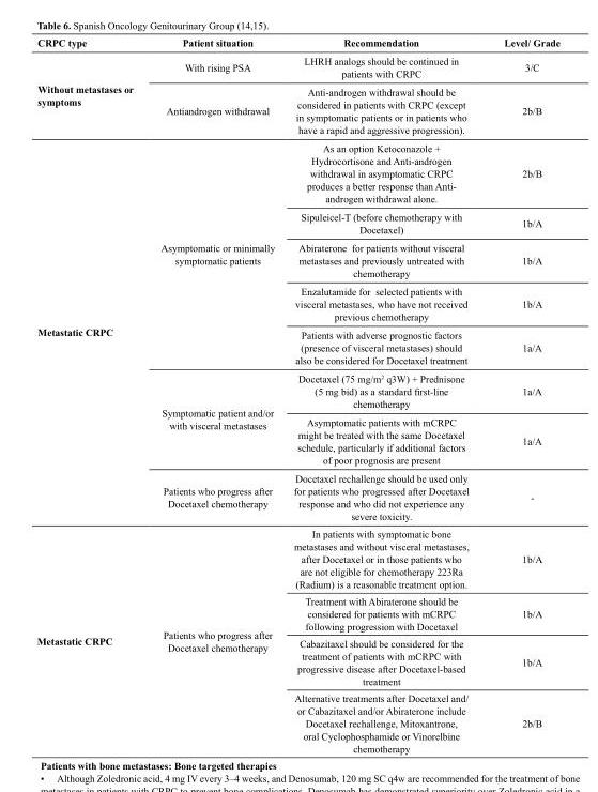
<table><thead><tr><td>CRPC type</td><td>Patient situation</td><td>Recommendation</td><td>Level/ Grade</td></tr></thead><tbody><tr><td rowspan="2">Without metastases or symptoms</td><td>With rising PSA</td><td>LHRH analogs should be continued in patients with CRPC</td><td>3/C</td></tr><tr><td>Antiandrogen withdrawal</td><td>Anti-androgen withdrawal should be considered in patients with CRPC (except in symptomatic patients or in patients who have a rapid and aggressive progression).</td><td>2b/B</td></tr><tr><td rowspan="12">Metastatic CRPC Metastatic CRPC</td><td rowspan="5">Asymptomatic or minimally symptomatic patients</td><td>As an option Ketoconazole + Hydrocortisone and Anti-androgen withdrawal in asymptomatic CRPC produces a better response than Anti- androgen withdrawal alone.</td><td>2b/B</td></tr><tr><td>Sipuleicel-T (before chemotherapy with Docetaxel)</td><td>1b/A</td></tr><tr><td>Abiraterone for patients without visceral metastases and previously untreated with chemotherapy</td><td>1b/A</td></tr><tr><td>Enzalutamide for selected patients with visceral metastases, who have not received previous chemotherapy</td><td>1b/A</td></tr><tr><td>Patients with adverse prognostic factors (presence of visceral metastases) should also be considered for Docetaxel treatment</td><td>1a/A</td></tr><tr><td rowspan="2">Symptomatic patient and/or with visceral metastases</td><td>Docetaxel (75 mg/m<sup>2</sup> q3W) + Prednisone (5 mg bid) as a standard first-line chemotherapy</td><td>1a/A</td></tr><tr><td>Asymptomatic patients with mCRPC might be treated with the same Docetaxel schedule, particularly if additional factors of poor prognosis are present</td><td>1a/A</td></tr><tr><td rowspan="5">Patients who progress after Docetaxel chemotherapy Patients who progress after Docetaxel chemotherapy</td><td>Docetaxel rechallenge should be used only for patients who progressed after Docetaxel response and who did not experience any severe toxicity.</td><td>-</td></tr><tr><td>In patients with symptomatic bone metastases and without visceral metastases, after Docetaxel or in those patients who are not eligible for chemotherapy <sup>223</sup>Ra (Radium) is a reasonable treatment option.</td><td>1b/A</td></tr><tr><td>Treatment with Abiraterone should be considered for patients with mCRPC following progression with Docetaxel</td><td>1b/A</td></tr><tr><td>Cabazitaxel should be considered for the treatment of patients with mCRPC with progressive disease after Docetaxel-based treatment</td><td>1b/A</td></tr><tr><td>Alternative treatments after Docetaxel and/ or Cabazitaxel and/or Abiraterone include Docetaxel rechallenge, Mitoxantrone, oral Cyclophosphamide or Vinorelbine chemotherapy</td><td>2b/B</td></tr></tbody></table>